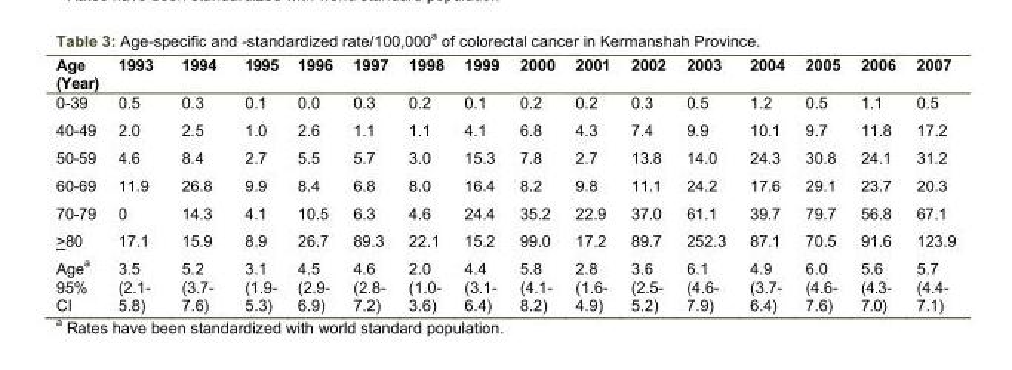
<table><thead><tr><td>Age (Year)</td><td>1993</td><td>1994</td><td>1995</td><td>1996</td><td>1997</td><td>1998</td><td>1999</td><td>2000</td><td>2001</td><td>2002</td><td>2003</td><td>2004</td><td>2005</td><td>2006</td><td>2007</td></tr></thead><tbody><tr><td>0-39</td><td>0.5</td><td>0.3</td><td>0.1</td><td>0.0</td><td>0.3</td><td>0.2</td><td>0.1</td><td>0.2</td><td>0.2</td><td>0.3</td><td>0.5</td><td>1.2</td><td>0.5</td><td>1.1</td><td>0.5</td></tr><tr><td>40-49</td><td>2.0</td><td>2.5</td><td>1.0</td><td>2.6</td><td>1.1</td><td>1.1</td><td>4.1</td><td>6.8</td><td>4.3</td><td>7.4</td><td>9.9</td><td>10.1</td><td>9.7</td><td>11.8</td><td>17.2</td></tr><tr><td>50-59</td><td>4.6</td><td>8.4</td><td>2.7</td><td>5.5</td><td>5.7</td><td>3.0</td><td>15.3</td><td>7.8</td><td>2.7</td><td>13.8</td><td>14.0</td><td>24.3</td><td>30.8</td><td>24.1</td><td>31.2</td></tr><tr><td>60-69</td><td>11.9</td><td>26.8</td><td>9.9</td><td>8.4</td><td>6.8</td><td>8.0</td><td>16.4</td><td>8.2</td><td>9.8</td><td>11.1</td><td>24.2</td><td>17.6</td><td>29.1</td><td>23.7</td><td>20.3</td></tr><tr><td>70-79</td><td>0</td><td>14.3</td><td>4.1</td><td>10.5</td><td>6.3</td><td>4.6</td><td>24.4</td><td>35.2</td><td>22.9</td><td>37.0</td><td>61.1</td><td>39.7</td><td>79.7</td><td>56.8</td><td>67.1</td></tr><tr><td>&gt;80</td><td>17.1</td><td>15.9</td><td>8.9</td><td>26.7</td><td>89.3</td><td>22.1</td><td>15.2</td><td>99.0</td><td>17.2</td><td>89.7</td><td>252.3</td><td>87.1</td><td>70.5</td><td>91.6</td><td>123.9</td></tr><tr><td>Agea 95% CI</td><td>3.5 (2.1- 5.8)</td><td>5.2 (3.7- 7.6)</td><td>3.1 (1.9 - 5.3)</td><td>4.5 (2.9 - 6.9)</td><td>4.6 (2.8 - 7.2)</td><td>2.0 (1.0 - 3.6)</td><td>4.4 (3.1- 6.4)</td><td>5.8 (4.1- 8.2)</td><td>2.8 (1.6 - 4.9)</td><td>3.6 (2.5- 5.2)</td><td>6.1 (4.6- 7.9)</td><td>4.9 (3.7- 6.4)</td><td>6.0 (4.6- 7.6)</td><td>5.6 (4.3- 7.0)</td><td>5.7 (4.4- 7.1)</td></tr></tbody></table>